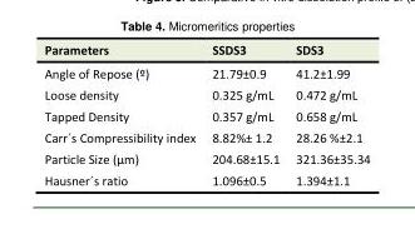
<table><tbody><tr><td>Parameters</td><td>SSDS3</td><td>SDS3</td></tr><tr><td>Angle of Repose (º)</td><td>21.79±0.9</td><td>41.2±1.99</td></tr><tr><td>Loose density</td><td>0.325 g/mL</td><td>0.472 g/mL</td></tr><tr><td>Tapped Density</td><td>0.357 g/mL</td><td>0.658 g/mL</td></tr><tr><td>Carr´s Compressibility index</td><td>8.82%± 1.2</td><td>28.26 %±2.1</td></tr><tr><td>Particle Size (µm)</td><td>204.68±15.1</td><td>321.36±35.34</td></tr><tr><td>Hausner´s ratio</td><td>1.096±0.5</td><td>1.394±1.1</td></tr></tbody></table>